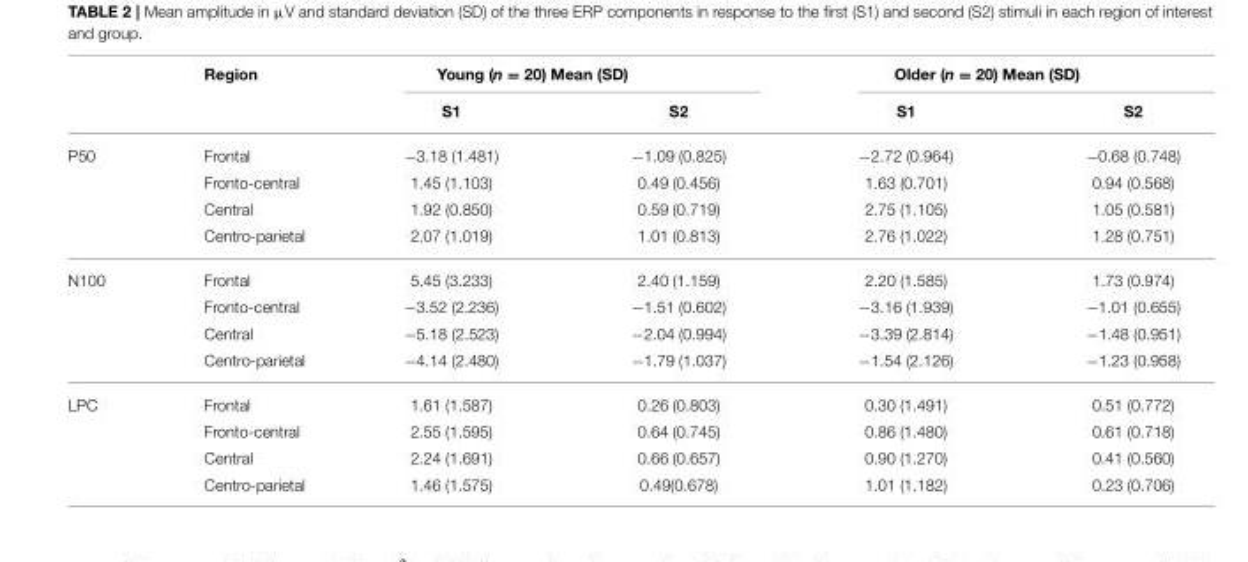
<table><thead><tr><td rowspan="2"></td><td rowspan="2">Region</td><td colspan="2">Young (n = 20) Mean (SD)</td><td colspan="2">Older (n = 20) Mean (SD)</td></tr><tr><td>S1</td><td>S2</td><td>S1</td><td>S2</td></tr></thead><tbody><tr><td rowspan="4">P50</td><td>Frontal</td><td>−3.18 (1.481)</td><td>−1.09 (0.825)</td><td>−2.72 (0.964)</td><td>−0.68 (0.748)</td></tr><tr><td>Fronto-central</td><td>1.45 (1.103)</td><td>0.49 (0.456)</td><td>1.63 (0.701)</td><td>0.94 (0.568)</td></tr><tr><td>Central</td><td>1.92 (0.850)</td><td>0.59 (0.719)</td><td>2.75 (1.105)</td><td>1.05 (0.581)</td></tr><tr><td>Centro-parietal</td><td>2.07 (1.019)</td><td>1.01 (0.813)</td><td>2.76 (1.022)</td><td>1.28 (0.751)</td></tr><tr><td rowspan="4">N100</td><td>Frontal</td><td>5.45 (3.233)</td><td>2.40 (1.159)</td><td>2.20 (1.585)</td><td>1.73 (0.974)</td></tr><tr><td>Fronto-central</td><td>−3.52 (2.236)</td><td>−1.51 (0.602)</td><td>−3.16 (1.939)</td><td>−1.01 (0.655)</td></tr><tr><td>Central</td><td>−5.18 (2.523)</td><td>−2.04 (0.994)</td><td>−3.39 (2.814)</td><td>−1.48 (0.951)</td></tr><tr><td>Centro-parietal</td><td>−4.14 (2.480)</td><td>−1.79 (1.037)</td><td>−1.54 (2.126)</td><td>−1.23 (0.958)</td></tr><tr><td rowspan="4">LPC</td><td>Frontal</td><td>1.61 (1.587)</td><td>0.26 (0.803)</td><td>0.30 (1.491)</td><td>0.51 (0.772)</td></tr><tr><td>Fronto-central</td><td>2.55 (1.595)</td><td>0.64 (0.745)</td><td>0.86 (1.480)</td><td>0.61 (0.718)</td></tr><tr><td>Central</td><td>2.24 (1.691)</td><td>0.66 (0.657)</td><td>0.90 (1.270)</td><td>0.41 (0.560)</td></tr><tr><td>Centro-parietal</td><td>1.46 (1.575)</td><td>0.49(0.678)</td><td>1.01 (1.182)</td><td>0.23 (0.706)</td></tr></tbody></table>